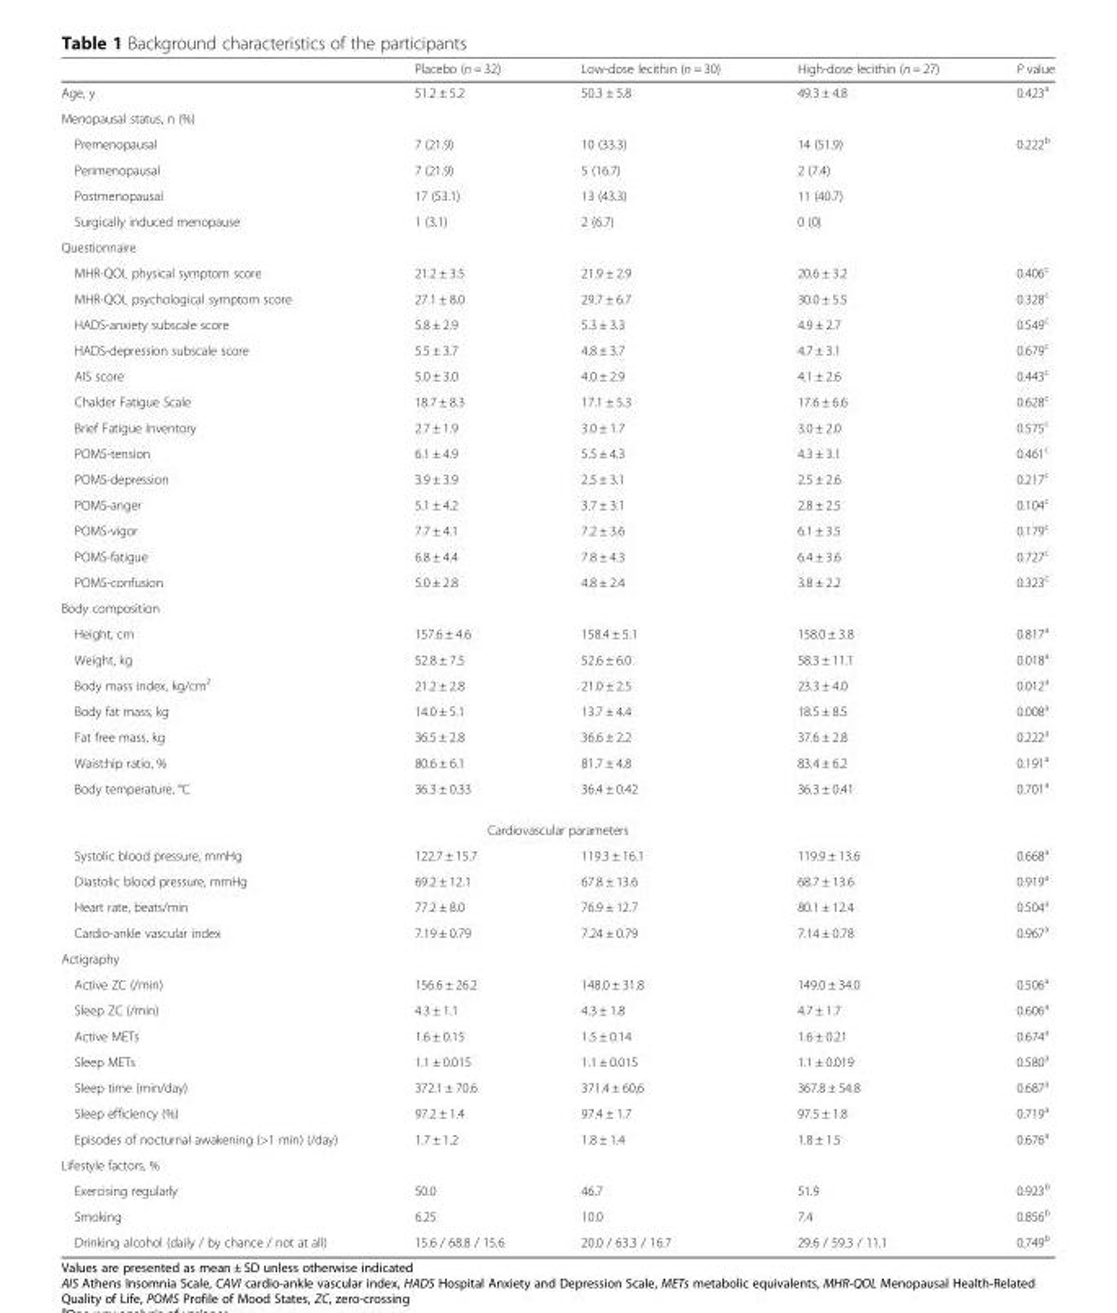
<table><thead><tr><td></td><td>Placebo (n = 32)</td><td>Low-dose lecithin (n = 30)</td><td>High-dose lecithin (n = 27)</td><td>P value</td></tr></thead><tbody><tr><td>Age, y</td><td>51.2 ± 5.2</td><td>50.3 ± 5.8</td><td>49.3 ± 4.8</td><td>0.423<sup>a</sup></td></tr><tr><td colspan="5">Menopausal status, n (%)</td></tr><tr><td>Premenopausal</td><td>7 (21.9)</td><td>10 (33.3)</td><td>14 (51.9)</td><td>0.222<sup>b</sup></td></tr><tr><td>Perimenopausal</td><td>7 (21.9)</td><td>5 (16.7)</td><td>2 (7.4)</td><td></td></tr><tr><td>Postmenopausal</td><td>17 (53.1)</td><td>13 (43.3)</td><td>11 (40.7)</td><td></td></tr><tr><td>Surgically induced menopause</td><td>1 (3.1)</td><td>2 (6.7)</td><td>0 (0)</td><td></td></tr><tr><td colspan="5">Questionnaire</td></tr><tr><td>MHR-QOL physical symptom score</td><td>21.2 ± 3.5</td><td>21.9 ± 2.9</td><td>20.6 ± 3.2</td><td>0.406<sup>c</sup></td></tr><tr><td>MHR-QOL psychological symptom score</td><td>27.1 ± 8.0</td><td>29.7 ± 6.7</td><td>30.0 ± 5.5</td><td>0.328<sup>c</sup></td></tr><tr><td>HADS-anxiety subscale score</td><td>5.8 ± 2.9</td><td>5.3 ± 3.3</td><td>4.9 ± 2.7</td><td>0.549<sup>c</sup></td></tr><tr><td>HADS-depression subscale score</td><td>5.5 ± 3.7</td><td>4.8 ± 3.7</td><td>4.7 ± 3.1</td><td>0.679<sup>c</sup></td></tr><tr><td>AIS score</td><td>5.0 ± 3.0</td><td>4.0 ± 2.9</td><td>4.1 ± 2.6</td><td>0.443<sup>c</sup></td></tr><tr><td>Chalder Fatigue Scale</td><td>18.7 ± 8.3</td><td>17.1 ± 5.3</td><td>17.6 ± 6.6</td><td>0.628<sup>c</sup></td></tr><tr><td>Brief Fatigue Inventory</td><td>2.7 ± 1.9</td><td>3.0 ± 1.7</td><td>3.0 ± 2.0</td><td>0.575<sup>c</sup></td></tr><tr><td>POMS-tension</td><td>6.1 ± 4.9</td><td>5.5 ± 4.3</td><td>4.3 ± 3.1</td><td>0.461<sup>c</sup></td></tr><tr><td>POMS-depression</td><td>3.9 ± 3.9</td><td>2.5 ± 3.1</td><td>2.5 ± 2.6</td><td>0.217<sup>c</sup></td></tr><tr><td>POMS-anger</td><td>5.1 ± 4.2</td><td>3.7 ± 3.1</td><td>2.8 ± 2.5</td><td>0.104<sup>c</sup></td></tr><tr><td>POMS-vigor</td><td>7.7 ± 4.1</td><td>7.2 ± 3.6</td><td>6.1 ± 3.5</td><td>0.179<sup>c</sup></td></tr><tr><td>POMS-fatigue</td><td>6.8 ± 4.4</td><td>7.8 ± 4.3</td><td>6.4 ± 3.6</td><td>0.727<sup>c</sup></td></tr><tr><td>POMS-confusion</td><td>5.0 ± 2.8</td><td>4.8 ± 2.4</td><td>3.8 ± 2.2</td><td>0.323<sup>c</sup></td></tr><tr><td colspan="5">Body composition</td></tr><tr><td>Height, cm</td><td>157.6 ± 4.6</td><td>158.4 ± 5.1</td><td>158.0 ± 3.8</td><td>0.817<sup>a</sup></td></tr><tr><td>Weight, kg</td><td>52.8 ± 7.5</td><td>52.6 ± 6.0</td><td>58.3 ± 11.1</td><td>0.018<sup>a</sup></td></tr><tr><td>Body mass index, kg/cm<sup>2</sup></td><td>21.2 ± 2.8</td><td>21.0 ± 2.5</td><td>23.3 ± 4.0</td><td>0.012<sup>a</sup></td></tr><tr><td>Body fat mass, kg</td><td>14.0 ± 5.1</td><td>13.7 ± 4.4</td><td>18.5 ± 8.5</td><td>0.008<sup>a</sup></td></tr><tr><td>Fat free mass, kg</td><td>36.5 ± 2.8</td><td>36.6 ± 2.2</td><td>37.6 ± 2.8</td><td>0.222<sup>a</sup></td></tr><tr><td>Waist:hip ratio, %</td><td>80.6 ± 6.1</td><td>81.7 ± 4.8</td><td>83.4 ± 6.2</td><td>0.191<sup>a</sup></td></tr><tr><td>Body temperature, °C</td><td>36.3 ± 0.33</td><td>36.4 ± 0.42</td><td>36.3 ± 0.41</td><td>0.701<sup>a</sup></td></tr><tr><td colspan="5">Cardiovascular parameters</td></tr><tr><td>Systolic blood pressure, mmHg</td><td>122.7 ± 15.7</td><td>119.3 ± 16.1</td><td>119.9 ± 13.6</td><td>0.668<sup>a</sup></td></tr><tr><td>Diastolic blood pressure, mmHg</td><td>69.2 ± 12.1</td><td>67.8 ± 13.6</td><td>68.7 ± 13.6</td><td>0.919<sup>a</sup></td></tr><tr><td>Heart rate, beats/min</td><td>77.2 ± 8.0</td><td>76.9 ± 12.7</td><td>80.1 ± 12.4</td><td>0.504<sup>a</sup></td></tr><tr><td>Cardio-ankle vascular index</td><td>7.19 ± 0.79</td><td>7.24 ± 0.79</td><td>7.14 ± 0.78</td><td>0.967<sup>a</sup></td></tr><tr><td colspan="5">Actigraphy</td></tr><tr><td>Active ZC (/min)</td><td>156.6 ± 26.2</td><td>148.0 ± 31.8</td><td>149.0 ± 34.0</td><td>0.506<sup>a</sup></td></tr><tr><td>Sleep ZC (/min)</td><td>4.3 ± 1.1</td><td>4.3 ± 1.8</td><td>4.7 ± 1.7</td><td>0.606<sup>a</sup></td></tr><tr><td>Active METs</td><td>1.6 ± 0.15</td><td>1.5 ± 0.14</td><td>1.6 ± 0.21</td><td>0.674<sup>a</sup></td></tr><tr><td>Sleep METs</td><td>1.1 ± 0.015</td><td>1.1 ± 0.015</td><td>1.1 ± 0.019</td><td>0.580<sup>a</sup></td></tr><tr><td>Sleep time (min/day)</td><td>372.1 ± 70.6</td><td>371.4 ± 60,6</td><td>367.8 ± 54.8</td><td>0.687<sup>a</sup></td></tr><tr><td>Sleep efficiency (%)</td><td>97.2 ± 1.4</td><td>97.4 ± 1.7</td><td>97.5 ± 1.8</td><td>0.719<sup>a</sup></td></tr><tr><td>Episodes of nocturnal awakening (&gt;1 min) (/day)</td><td>1.7 ± 1.2</td><td>1.8 ± 1.4</td><td>1.8 ± 1.5</td><td>0.676<sup>a</sup></td></tr><tr><td colspan="5">Lifestyle factors, %</td></tr><tr><td>Exercising regularly</td><td>50.0</td><td>46.7</td><td>51.9</td><td>0.923<sup>b</sup></td></tr><tr><td>Smoking</td><td>6.25</td><td>10.0</td><td>7.4</td><td>0.856<sup>b</sup></td></tr><tr><td>Drinking alcohol (daily / by chance / not at all)</td><td>15.6 / 68.8 / 15.6</td><td>20.0 / 63.3 / 16.7</td><td>29.6 / 59.3 / 11.1</td><td>0.749<sup>b</sup></td></tr></tbody></table>